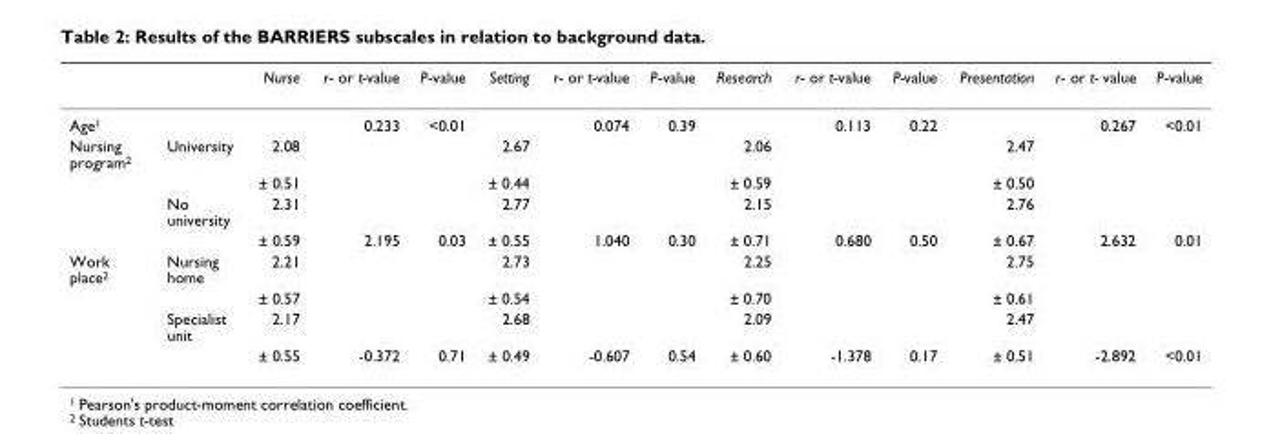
<table><thead><tr><td></td><td></td><td>Nurse</td><td>r- or t-value</td><td>P-value</td><td>Setting</td><td>r- or t-value</td><td>P-value</td><td>Research</td><td>r- or t-value</td><td>P-value</td><td>Presentation</td><td>r- or t- value</td><td>P-value</td></tr></thead><tbody><tr><td>Age<sup>1</sup></td><td></td><td></td><td>0.233</td><td>&lt;0.01</td><td></td><td>0.074</td><td>0.39</td><td></td><td>0.113</td><td>0.22</td><td></td><td>0.267</td><td>&lt;0.01</td></tr><tr><td rowspan="4">Nursing program<sup>2</sup></td><td>University</td><td>2.08</td><td></td><td></td><td>2.67</td><td></td><td></td><td>2.06</td><td></td><td></td><td>2.47</td><td></td><td></td></tr><tr><td></td><td>± 0.51</td><td></td><td></td><td>± 0.44</td><td></td><td></td><td>± 0.59</td><td></td><td></td><td>± 0.50</td><td></td><td></td></tr><tr><td>No university</td><td>2.31</td><td></td><td></td><td>2.77</td><td></td><td></td><td>2.15</td><td></td><td></td><td>2.76</td><td></td><td></td></tr><tr><td></td><td>± 0.59</td><td>2.195</td><td>0.03</td><td>± 0.55</td><td>1.040</td><td>0.30</td><td>± 0.71</td><td>0.680</td><td>0.50</td><td>± 0.67</td><td>2.632</td><td>0.01</td></tr><tr><td rowspan="4">Work place<sup>2</sup></td><td>Nursing home</td><td>2.21</td><td></td><td></td><td>2.73</td><td></td><td></td><td>2.25</td><td></td><td></td><td>2.75</td><td></td><td></td></tr><tr><td></td><td>± 0.57</td><td></td><td></td><td>± 0.54</td><td></td><td></td><td>± 0.70</td><td></td><td></td><td>± 0.61</td><td></td><td></td></tr><tr><td>Specialist unit</td><td>2.17</td><td></td><td></td><td>2.68</td><td></td><td></td><td>2.09</td><td></td><td></td><td>2.47</td><td></td><td></td></tr><tr><td></td><td>± 0.55</td><td>-0.372</td><td>0.71</td><td>± 0.49</td><td>-0.607</td><td>0.54</td><td>± 0.60</td><td>-1.378</td><td>0.17</td><td>± 0.51</td><td>-2.892</td><td>&lt;0.01</td></tr></tbody></table>